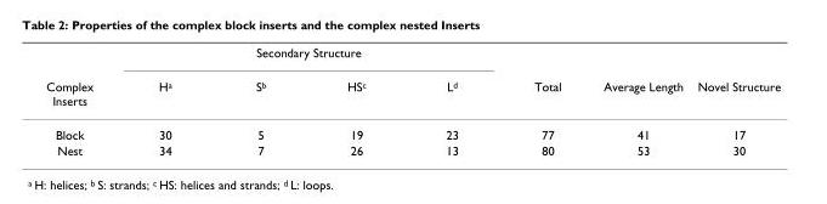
<table><thead><tr><td rowspan="2">Complex Inserts</td><td colspan="4">Secondary Structure</td><td rowspan="2">Total</td><td rowspan="2">Average Length</td><td rowspan="2">Novel Structure</td></tr><tr><td>H<sup>a</sup></td><td>S<sup>b</sup></td><td>HS<sup>c</sup></td><td>L<sup>d</sup></td></tr></thead><tbody><tr><td>Block</td><td>30</td><td>5</td><td>19</td><td>23</td><td>77</td><td>41</td><td>17</td></tr><tr><td>Nest</td><td>34</td><td>7</td><td>26</td><td>13</td><td>80</td><td>53</td><td>30</td></tr></tbody></table>